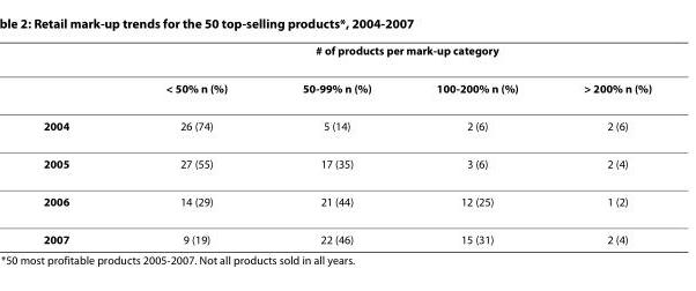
<table><thead><tr><td rowspan="2"></td><td colspan="4"># of products per mark-up category</td></tr><tr><td>&lt; 50% n (%)</td><td>50-99% n (%)</td><td>100-200% n (%)</td><td>&gt; 200% n (%)</td></tr></thead><tbody><tr><td>2004</td><td>26 (74)</td><td>5 (14)</td><td>2 (6)</td><td>2 (6)</td></tr><tr><td>2005</td><td>27 (55)</td><td>17 (35)</td><td>3 (6)</td><td>2 (4)</td></tr><tr><td>2006</td><td>14 (29)</td><td>21 (44)</td><td>12 (25)</td><td>1 (2)</td></tr><tr><td>2007</td><td>9 (19)</td><td>22 (46)</td><td>15 (31)</td><td>2 (4)</td></tr></tbody></table>